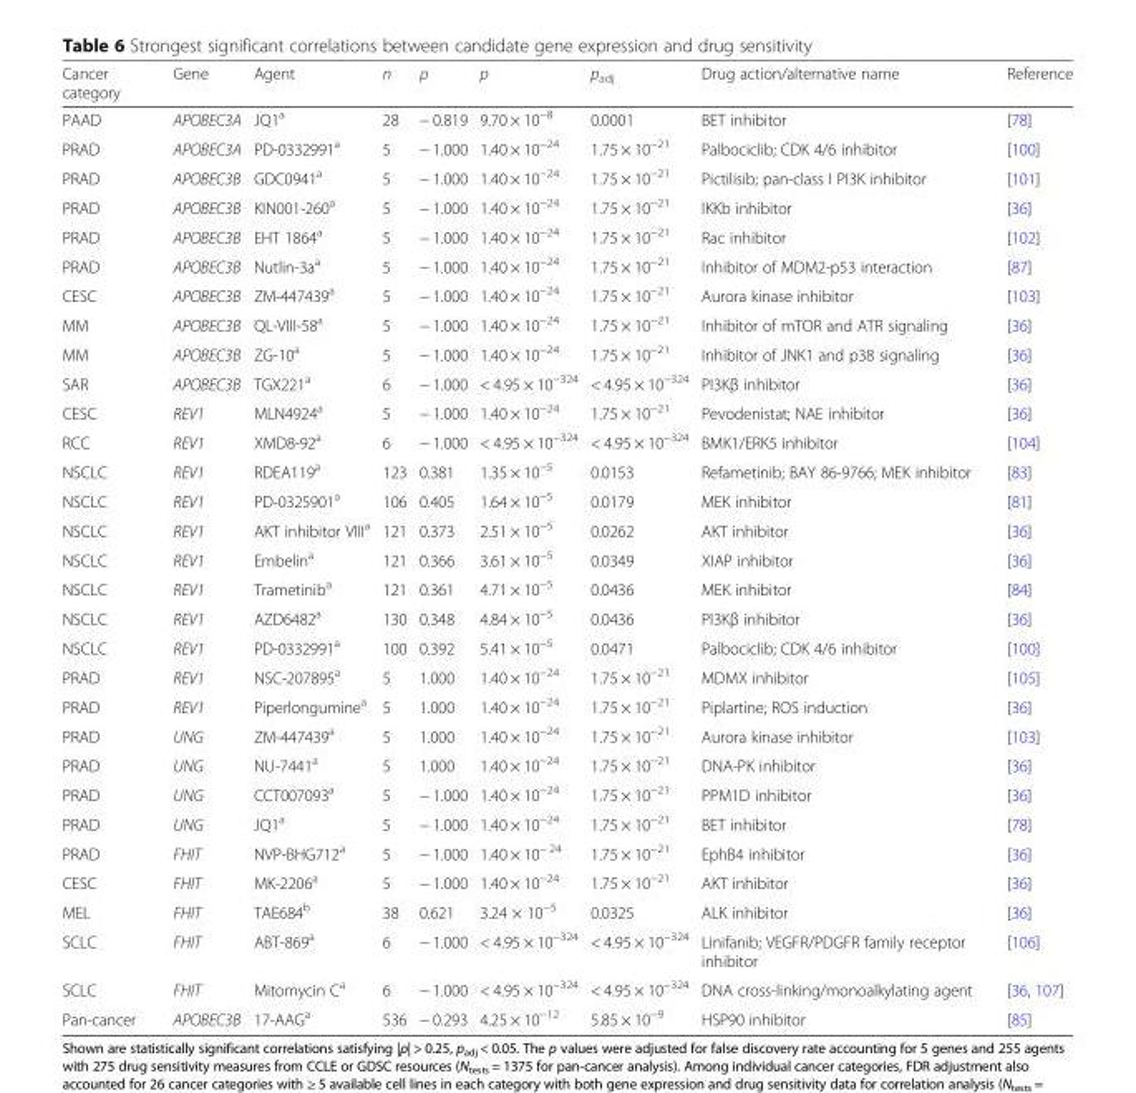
<table><thead><tr><td>Cancer category</td><td>Gene</td><td>Agent</td><td>n</td><td>ρ</td><td>p</td><td>p<sub>adj</sub></td><td>Drug action/alternative name</td><td>Reference</td></tr></thead><tbody><tr><td>PAAD</td><td>APOBEC3A</td><td>JQ1<sup>a</sup></td><td>28</td><td>− 0.819</td><td>9.70 × 10<sup>−8</sup></td><td>0.0001</td><td>BET inhibitor</td><td>[78]</td></tr><tr><td>PRAD</td><td>APOBEC3A</td><td>PD-0332991<sup>a</sup></td><td>5</td><td>− 1.000</td><td>1.40 × 10<sup>−24</sup></td><td>1.75 × 10<sup>−21</sup></td><td>Palbociclib; CDK 4/6 inhibitor</td><td>[100]</td></tr><tr><td>PRAD</td><td>APOBEC3B</td><td>GDC0941<sup>a</sup></td><td>5</td><td>− 1.000</td><td>1.40 × 10<sup>−24</sup></td><td>1.75 × 10<sup>−21</sup></td><td>Pictilisib; pan-class I PI3K inhibitor</td><td>[101]</td></tr><tr><td>PRAD</td><td>APOBEC3B</td><td>KIN001-260<sup>a</sup></td><td>5</td><td>− 1.000</td><td>1.40 × 10<sup>−24</sup></td><td>1.75 × 10<sup>−21</sup></td><td>IKKb inhibitor</td><td>[36]</td></tr><tr><td>PRAD</td><td>APOBEC3B</td><td>EHT 1864<sup>a</sup></td><td>5</td><td>− 1.000</td><td>1.40 × 10<sup>−24</sup></td><td>1.75 × 10<sup>−21</sup></td><td>Rac inhibitor</td><td>[102]</td></tr><tr><td>PRAD</td><td>APOBEC3B</td><td>Nutlin-3a<sup>a</sup></td><td>5</td><td>− 1.000</td><td>1.40 × 10<sup>−24</sup></td><td>1.75 × 10<sup>−21</sup></td><td>Inhibitor of MDM2-p53 interaction</td><td>[87]</td></tr><tr><td>CESC</td><td>APOBEC3B</td><td>ZM-447439<sup>a</sup></td><td>5</td><td>− 1.000</td><td>1.40 × 10<sup>−24</sup></td><td>1.75 × 10<sup>−21</sup></td><td>Aurora kinase inhibitor</td><td>[103]</td></tr><tr><td>MM</td><td>APOBEC3B</td><td>QL-VIII-58<sup>a</sup></td><td>5</td><td>− 1.000</td><td>1.40 × 10<sup>−24</sup></td><td>1.75 × 10<sup>−21</sup></td><td>Inhibitor of mTOR and ATR signaling</td><td>[36]</td></tr><tr><td>MM</td><td>APOBEC3B</td><td>ZG-10<sup>a</sup></td><td>5</td><td>− 1.000</td><td>1.40 × 10<sup>−24</sup></td><td>1.75 × 10<sup>−21</sup></td><td>Inhibitor of JNK1 and p38 signaling</td><td>[36]</td></tr><tr><td>SAR</td><td>APOBEC3B</td><td>TGX221<sup>a</sup></td><td>6</td><td>− 1.000</td><td>&lt; 4.95 × 10<sup>−324</sup></td><td>&lt; 4.95 × 10<sup>−324</sup></td><td>PI3Kβ inhibitor</td><td>[36]</td></tr><tr><td>CESC</td><td>REV1</td><td>MLN4924<sup>a</sup></td><td>5</td><td>− 1.000</td><td>1.40 × 10<sup>−24</sup></td><td>1.75 × 10<sup>−21</sup></td><td>Pevodenistat; NAE inhibitor</td><td>[36]</td></tr><tr><td>RCC</td><td>REV1</td><td>XMD8-92<sup>a</sup></td><td>6</td><td>− 1.000</td><td>&lt; 4.95 × 10<sup>−324</sup></td><td>&lt; 4.95 × 10<sup>−324</sup></td><td>BMK1/ERK5 inhibitor</td><td>[104]</td></tr><tr><td>NSCLC</td><td>REV1</td><td>RDEA119<sup>a</sup></td><td>123</td><td>0.381</td><td>1.35 × 10<sup>−5</sup></td><td>0.0153</td><td>Refametinib; BAY 86-9766; MEK inhibitor</td><td>[83]</td></tr><tr><td>NSCLC</td><td>REV1</td><td>PD-0325901<sup>a</sup></td><td>106</td><td>0.405</td><td>1.64 × 10<sup>−5</sup></td><td>0.0179</td><td>MEK inhibitor</td><td>[81]</td></tr><tr><td>NSCLC</td><td>REV1</td><td>AKT inhibitor VIII<sup>a</sup></td><td>121</td><td>0.373</td><td>2.51 × 10<sup>−5</sup></td><td>0.0262</td><td>AKT inhibitor</td><td>[36]</td></tr><tr><td>NSCLC</td><td>REV1</td><td>Embelin<sup>a</sup></td><td>121</td><td>0.366</td><td>3.61 × 10<sup>−5</sup></td><td>0.0349</td><td>XIAP inhibitor</td><td>[36]</td></tr><tr><td>NSCLC</td><td>REV1</td><td>Trametinib<sup>a</sup></td><td>121</td><td>0.361</td><td>4.71 × 10<sup>−5</sup></td><td>0.0436</td><td>MEK inhibitor</td><td>[84]</td></tr><tr><td>NSCLC</td><td>REV1</td><td>AZD6482<sup>a</sup></td><td>130</td><td>0.348</td><td>4.84 × 10<sup>−5</sup></td><td>0.0436</td><td>PI3Kβ inhibitor</td><td>[36]</td></tr><tr><td>NSCLC</td><td>REV1</td><td>PD-0332991<sup>a</sup></td><td>100</td><td>0.392</td><td>5.41 × 10<sup>−5</sup></td><td>0.0471</td><td>Palbociclib; CDK 4/6 inhibitor</td><td>[100]</td></tr><tr><td>PRAD</td><td>REV1</td><td>NSC-207895<sup>a</sup></td><td>5</td><td>1.000</td><td>1.40 × 10<sup>−24</sup></td><td>1.75 × 10<sup>−21</sup></td><td>MDMX inhibitor</td><td>[105]</td></tr><tr><td>PRAD</td><td>REV1</td><td>Piperlongumine<sup>a</sup></td><td>5</td><td>1.000</td><td>1.40 × 10<sup>−24</sup></td><td>1.75 × 10<sup>−21</sup></td><td>Piplartine; ROS induction</td><td>[36]</td></tr><tr><td>PRAD</td><td>UNG</td><td>ZM-447439<sup>a</sup></td><td>5</td><td>1.000</td><td>1.40 × 10<sup>−24</sup></td><td>1.75 × 10<sup>−21</sup></td><td>Aurora kinase inhibitor</td><td>[103]</td></tr><tr><td>PRAD</td><td>UNG</td><td>NU-7441<sup>a</sup></td><td>5</td><td>1.000</td><td>1.40 × 10<sup>−24</sup></td><td>1.75 × 10<sup>−21</sup></td><td>DNA-PK inhibitor</td><td>[36]</td></tr><tr><td>PRAD</td><td>UNG</td><td>CCT007093<sup>a</sup></td><td>5</td><td>− 1.000</td><td>1.40 × 10<sup>−24</sup></td><td>1.75 × 10<sup>−21</sup></td><td>PPM1D inhibitor</td><td>[36]</td></tr><tr><td>PRAD</td><td>UNG</td><td>JQ1<sup>a</sup></td><td>5</td><td>− 1.000</td><td>1.40 × 10<sup>−24</sup></td><td>1.75 × 10<sup>−21</sup></td><td>BET inhibitor</td><td>[78]</td></tr><tr><td>PRAD</td><td>FHIT</td><td>NVP-BHG712<sup>a</sup></td><td>5</td><td>− 1.000</td><td>1.40 × 10<sup>− 24</sup></td><td>1.75 × 10<sup>−21</sup></td><td>EphB4 inhibitor</td><td>[36]</td></tr><tr><td>CESC</td><td>FHIT</td><td>MK-2206<sup>a</sup></td><td>5</td><td>− 1.000</td><td>1.40 × 10<sup>−24</sup></td><td>1.75 × 10<sup>−21</sup></td><td>AKT inhibitor</td><td>[36]</td></tr><tr><td>MEL</td><td>FHIT</td><td>TAE684<sup>b</sup></td><td>38</td><td>0.621</td><td>3.24 × 10<sup>−5</sup></td><td>0.0325</td><td>ALK inhibitor</td><td>[36]</td></tr><tr><td>SCLC</td><td>FHIT</td><td>ABT-869<sup>a</sup></td><td>6</td><td>− 1.000</td><td>&lt; 4.95 × 10<sup>−324</sup></td><td>&lt; 4.95 × 10<sup>−324</sup></td><td>Linifanib; VEGFR/PDGFR family receptor inhibitor</td><td>[106]</td></tr><tr><td>SCLC</td><td>FHIT</td><td>Mitomycin C<sup>a</sup></td><td>6</td><td>− 1.000</td><td>&lt; 4.95 × 10<sup>−324</sup></td><td>&lt; 4.95 × 10<sup>−324</sup></td><td>DNA cross-linking/monoalkylating agent</td><td>[36, 107]</td></tr><tr><td>Pan-cancer</td><td>APOBEC3B</td><td>17-AAG<sup>a</sup></td><td>536</td><td>− 0.293</td><td>4.25 × 10<sup>−12</sup></td><td>5.85 × 10<sup>−9</sup></td><td>HSP90 inhibitor</td><td>[85]</td></tr></tbody></table>